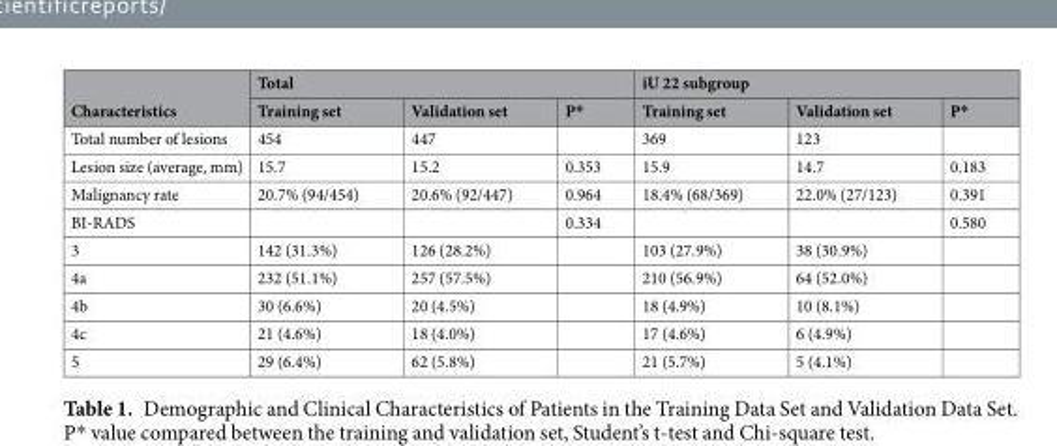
<table><thead><tr><td rowspan="2">Characteristics</td><td colspan="3">Total</td><td colspan="3">iU 22 subgroup</td></tr><tr><td>Training set</td><td>Validation set</td><td>P*</td><td>Training set</td><td>Validation set</td><td>P*</td></tr></thead><tbody><tr><td>Total number of lesions</td><td>454</td><td>447</td><td></td><td>369</td><td>123</td><td></td></tr><tr><td>Lesion size (average, mm)</td><td>15.7</td><td>15.2</td><td>0.353</td><td>15.9</td><td>14.7</td><td>0.183</td></tr><tr><td>Malignancy rate</td><td>20.7% (94/454)</td><td>20.6% (92/447)</td><td>0.964</td><td>18.4% (68/369)</td><td>22.0% (27/123)</td><td>0.391</td></tr><tr><td>BI-RADS</td><td></td><td></td><td>0.334</td><td></td><td></td><td>0.580</td></tr><tr><td>3</td><td>142 (31.3%)</td><td>126 (28.2%)</td><td></td><td>103 (27.9%)</td><td>38 (30.9%)</td><td></td></tr><tr><td>4a</td><td>232 (51.1%)</td><td>257 (57.5%)</td><td></td><td>210 (56.9%)</td><td>64 (52.0%)</td><td></td></tr><tr><td>4b</td><td>30 (6.6%)</td><td>20 (4.5%)</td><td></td><td>18 (4.9%)</td><td>10 (8.1%)</td><td></td></tr><tr><td>4c</td><td>21 (4.6%)</td><td>18 (4.0%)</td><td></td><td>17 (4.6%)</td><td>6 (4.9%)</td><td></td></tr><tr><td>5</td><td>29 (6.4%)</td><td>62 (5.8%)</td><td></td><td>21 (5.7%)</td><td>5 (4.1%)</td><td></td></tr></tbody></table>